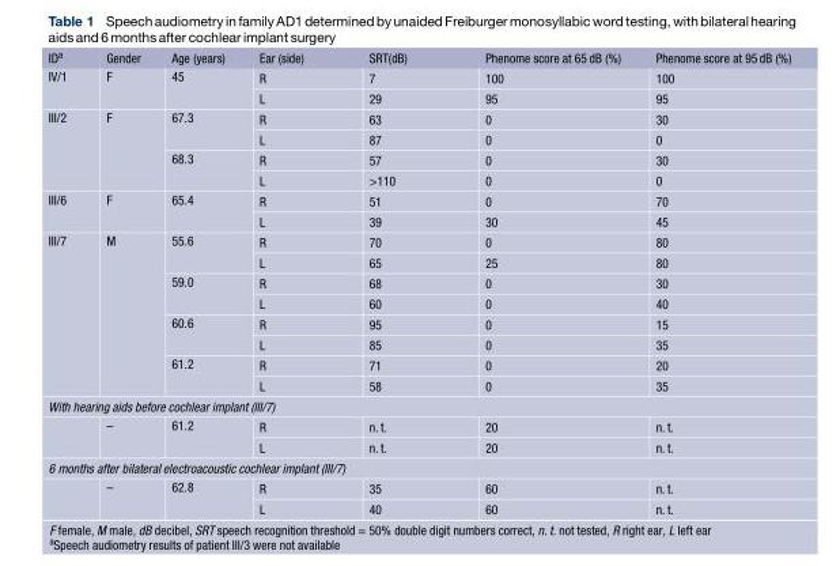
<table><thead><tr><td>ID<sup>a</sup></td><td>Gender</td><td>Age (years)</td><td>Ear (side)</td><td>SRT(dB)</td><td>Phenome score at 65 dB (%)</td><td>Phenome score at 95 dB (%)</td></tr></thead><tbody><tr><td rowspan="2">IV/1</td><td rowspan="2">F</td><td rowspan="2">45</td><td>R</td><td>7</td><td>100</td><td>100</td></tr><tr><td>L</td><td>29</td><td>95</td><td>95</td></tr><tr><td rowspan="4">III/2</td><td rowspan="4">F</td><td rowspan="2">67.3</td><td>R</td><td>63</td><td>0</td><td>30</td></tr><tr><td>L</td><td>87</td><td>0</td><td>0</td></tr><tr><td rowspan="2">68.3</td><td>R</td><td>57</td><td>0</td><td>30</td></tr><tr><td>L</td><td>&gt;110</td><td>0</td><td>0</td></tr><tr><td rowspan="2">III/6</td><td rowspan="2">F</td><td rowspan="2">65.4</td><td>R</td><td>51</td><td>0</td><td>70</td></tr><tr><td>L</td><td>39</td><td>30</td><td>45</td></tr><tr><td rowspan="8">III/7</td><td rowspan="8">M</td><td rowspan="2">55.6</td><td>R</td><td>70</td><td>0</td><td>80</td></tr><tr><td>L</td><td>65</td><td>25</td><td>80</td></tr><tr><td rowspan="2">59.0</td><td>R</td><td>68</td><td>0</td><td>30</td></tr><tr><td>L</td><td>60</td><td>0</td><td>40</td></tr><tr><td rowspan="2">60.6</td><td>R</td><td>95</td><td>0</td><td>15</td></tr><tr><td>L</td><td>85</td><td>0</td><td>35</td></tr><tr><td rowspan="2">61.2</td><td>R</td><td>71</td><td>0</td><td>20</td></tr><tr><td>L</td><td>58</td><td>0</td><td>35</td></tr><tr><td colspan="7">With hearing aids before cochlear implant (III/7)</td></tr><tr><td rowspan="2"></td><td rowspan="2">–</td><td rowspan="2">61.2</td><td>R</td><td>n. t.</td><td>20</td><td>n. t.</td></tr><tr><td>L</td><td>n. t.</td><td>20</td><td>n. t.</td></tr><tr><td colspan="7">6 months after bilateral electroacoustic cochlear implant (III/7)</td></tr><tr><td rowspan="2"></td><td rowspan="2">–</td><td rowspan="2">62.8</td><td>R</td><td>35</td><td>60</td><td>n. t.</td></tr><tr><td>L</td><td>40</td><td>60</td><td>n. t.</td></tr></tbody></table>